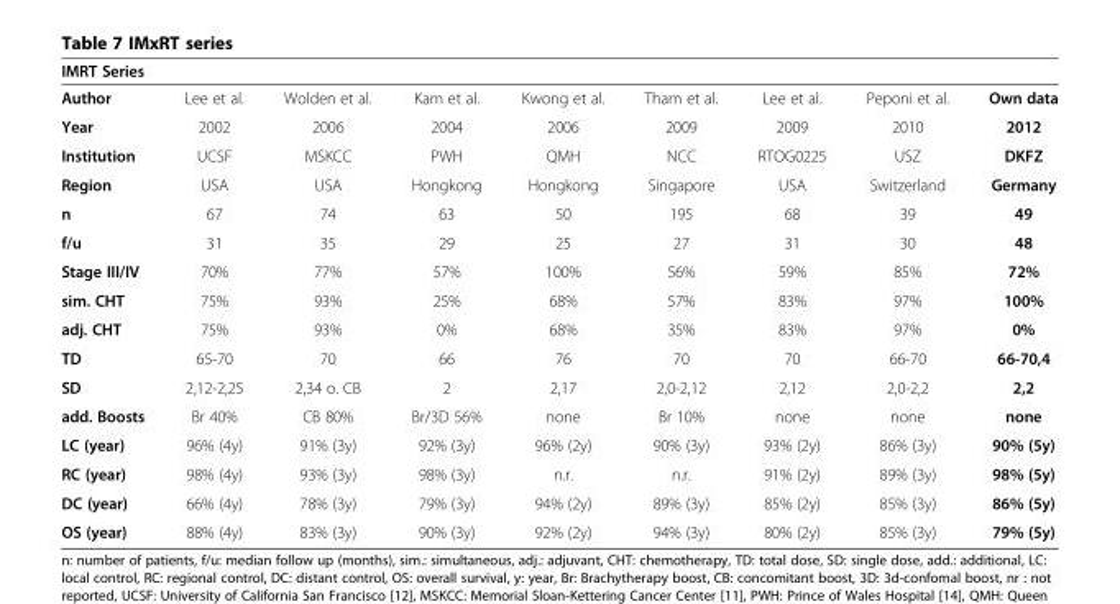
<table><thead><tr><td colspan="9">IMRT Series</td></tr><tr><td>Author</td><td>Lee et al.</td><td>Wolden et al.</td><td>Kam et al.</td><td>Kwong et al.</td><td>Tham et al.</td><td>Lee et al.</td><td>Peponi et al.</td><td>Own data</td></tr></thead><tbody><tr><td>Year</td><td>2002</td><td>2006</td><td>2004</td><td>2006</td><td>2009</td><td>2009</td><td>2010</td><td>2012</td></tr><tr><td>Institution</td><td>UCSF</td><td>MSKCC</td><td>PWH</td><td>QMH</td><td>NCC</td><td>RTOG0225</td><td>USZ</td><td>DKFZ</td></tr><tr><td>Region</td><td>USA</td><td>USA</td><td>Hongkong</td><td>Hongkong</td><td>Singapore</td><td>USA</td><td>Switzerland</td><td>Germany</td></tr><tr><td>n</td><td>67</td><td>74</td><td>63</td><td>50</td><td>195</td><td>68</td><td>39</td><td>49</td></tr><tr><td>f/u</td><td>31</td><td>35</td><td>29</td><td>25</td><td>27</td><td>31</td><td>30</td><td>48</td></tr><tr><td>Stage III/IV</td><td>70%</td><td>77%</td><td>57%</td><td>100%</td><td>56%</td><td>59%</td><td>85%</td><td>72%</td></tr><tr><td>sim. CHT</td><td>75%</td><td>93%</td><td>25%</td><td>68%</td><td>57%</td><td>83%</td><td>97%</td><td>100%</td></tr><tr><td>adj. CHT</td><td>75%</td><td>93%</td><td>0%</td><td>68%</td><td>35%</td><td>83%</td><td>97%</td><td>0%</td></tr><tr><td>TD</td><td>65-70</td><td>70</td><td>66</td><td>76</td><td>70</td><td>70</td><td>66-70</td><td>66-70,4</td></tr><tr><td>SD</td><td>2,12-2,25</td><td>2,34 o. CB</td><td>2</td><td>2,17</td><td>2,0-2,12</td><td>2,12</td><td>2,0-2,2</td><td>2,2</td></tr><tr><td>add. Boosts</td><td>Br 40%</td><td>CB 80%</td><td>Br/3D 56%</td><td>none</td><td>Br 10%</td><td>none</td><td>none</td><td>none</td></tr><tr><td>LC (year)</td><td>96% (4y)</td><td>91% (3y)</td><td>92% (3y)</td><td>96% (2y)</td><td>90% (3y)</td><td>93% (2y)</td><td>86% (3y)</td><td>90% (5y)</td></tr><tr><td>RC (year)</td><td>98% (4y)</td><td>93% (3y)</td><td>98% (3y)</td><td>n.r.</td><td>n.r.</td><td>91% (2y)</td><td>89% (3y)</td><td>98% (5y)</td></tr><tr><td>DC (year)</td><td>66% (4y)</td><td>78% (3y)</td><td>79% (3y)</td><td>94% (2y)</td><td>89% (3y)</td><td>85% (2y)</td><td>85% (3y)</td><td>86% (5y)</td></tr><tr><td>OS (year)</td><td>88% (4y)</td><td>83% (3y)</td><td>90% (3y)</td><td>92% (2y)</td><td>94% (3y)</td><td>80% (2y)</td><td>85% (3y)</td><td>79% (5y)</td></tr></tbody></table>